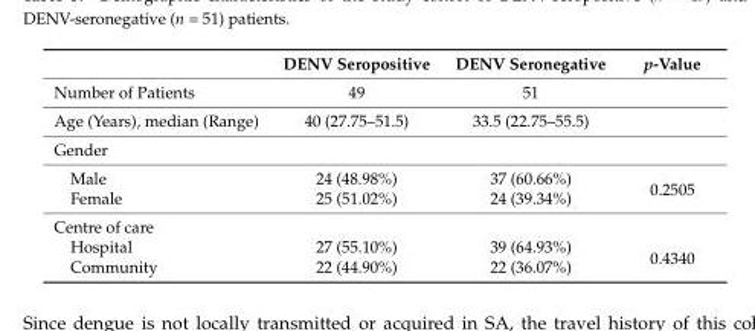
<table><thead><tr><td></td><td>DENV Seropositive</td><td>DENV Seronegative</td><td>p-Value</td></tr></thead><tbody><tr><td>Number of Patients</td><td>49</td><td>51</td><td></td></tr><tr><td>Age (Years), median (Range)</td><td>40 (27.75–51.5)</td><td>33.5 (22.75–55.5)</td><td></td></tr><tr><td colspan="4">Gender</td></tr><tr><td>Male</td><td>24 (48.98%)</td><td>37 (60.66%)</td><td rowspan="2">0.2505</td></tr><tr><td>Female</td><td>25 (51.02%)</td><td>24 (39.34%)</td></tr><tr><td colspan="4">Centre of care</td></tr><tr><td>Hospital</td><td>27 (55.10%)</td><td>39 (64.93%)</td><td rowspan="2">0.4340</td></tr><tr><td>Community</td><td>22 (44.90%)</td><td>22 (36.07%)</td></tr></tbody></table>